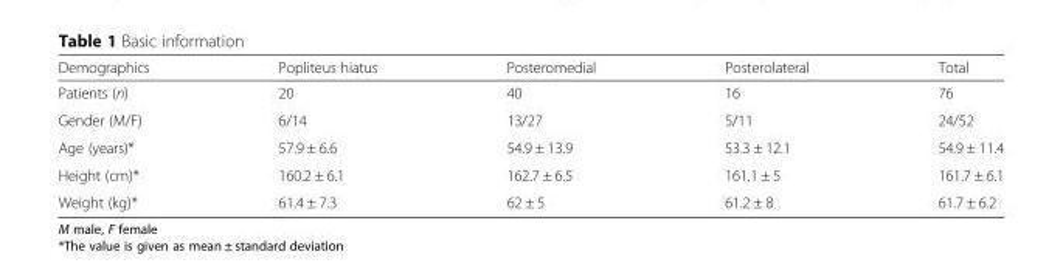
<table><thead><tr><td>Demographics</td><td>Popliteus hiatus</td><td>Posteromedial</td><td>Posterolateral</td><td>Total</td></tr></thead><tbody><tr><td>Patients (n)</td><td>20</td><td>40</td><td>16</td><td>76</td></tr><tr><td>Gender (M/F)</td><td>6/14</td><td>13/27</td><td>5/11</td><td>24/52</td></tr><tr><td>Age (years)*</td><td>57.9 ± 6.6</td><td>54.9 ± 13.9</td><td>53.3 ± 12.1</td><td>54.9 ± 11.4</td></tr><tr><td>Height (cm)*</td><td>160.2 ± 6.1</td><td>162.7 ± 6.5</td><td>161.1 ± 5</td><td>161.7 ± 6.1</td></tr><tr><td>Weight (kg)*</td><td>61.4 ± 7.3</td><td>62 ± 5</td><td>61.2 ± 8</td><td>61.7 ± 6.2</td></tr></tbody></table>